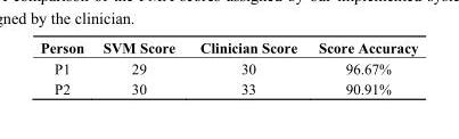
<table><thead><tr><td>Person</td><td>SVM Score</td><td>Clinician Score</td><td>Score Accuracy</td></tr></thead><tbody><tr><td>P1</td><td>29</td><td>30</td><td>96.67%</td></tr><tr><td>P2</td><td>30</td><td>33</td><td>90.91%</td></tr></tbody></table>